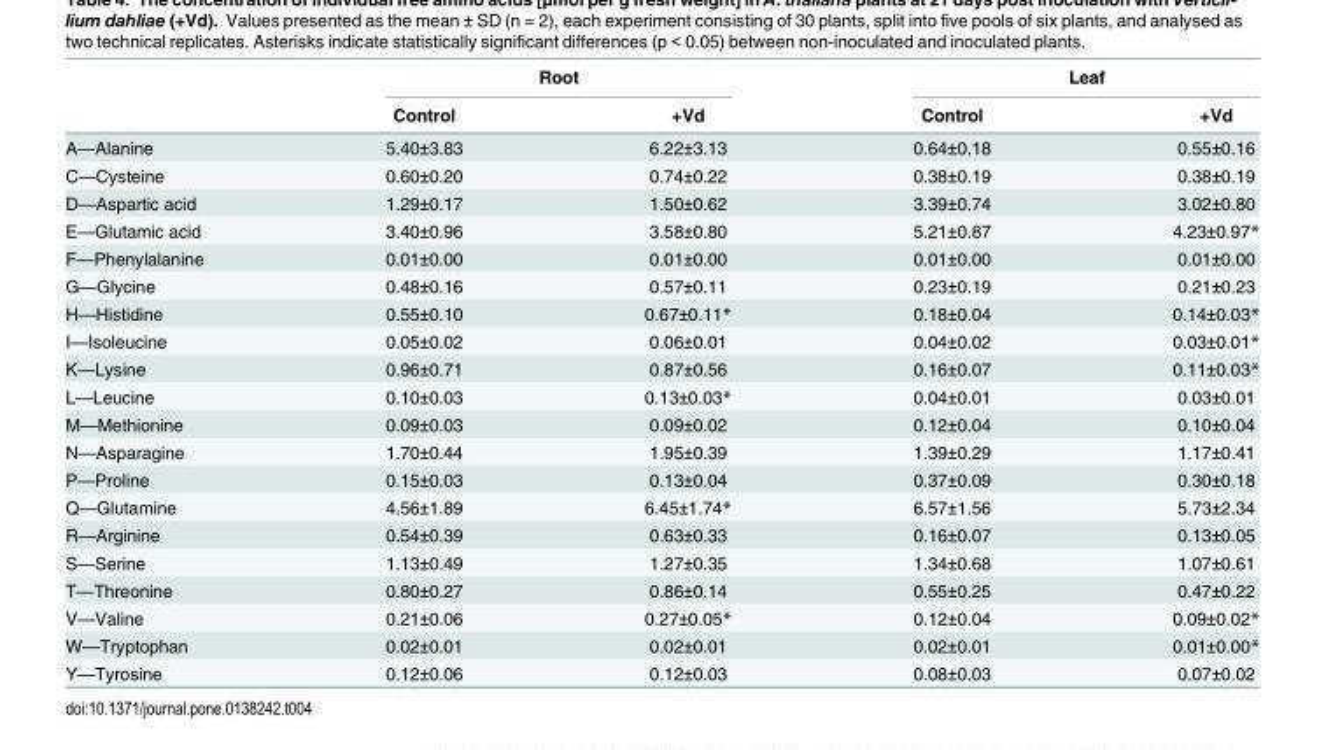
<table><thead><tr><td rowspan="2"></td><td colspan="2">Root</td><td colspan="2">Leaf</td></tr><tr><td>Control</td><td>+Vd</td><td>Control</td><td>+Vd</td></tr></thead><tbody><tr><td>A—Alanine</td><td>5.40±3.83</td><td>6.22±3.13</td><td>0.64±0.18</td><td>0.55±0.16</td></tr><tr><td>C—Cysteine</td><td>0.60±0.20</td><td>0.74±0.22</td><td>0.38±0.19</td><td>0.38±0.19</td></tr><tr><td>D—Aspartic acid</td><td>1.29±0.17</td><td>1.50±0.62</td><td>3.39±0.74</td><td>3.02±0.80</td></tr><tr><td>E—Glutamic acid</td><td>3.40±0.96</td><td>3.58±0.80</td><td>5.21±0.87</td><td>4.23±0.97*</td></tr><tr><td>F—Phenylalanine</td><td>0.01±0.00</td><td>0.01±0.00</td><td>0.01±0.00</td><td>0.01±0.00</td></tr><tr><td>G—Glycine</td><td>0.48±0.16</td><td>0.57±0.11</td><td>0.23±0.19</td><td>0.21±0.23</td></tr><tr><td>H—Histidine</td><td>0.55±0.10</td><td>0.67±0.11*</td><td>0.18±0.04</td><td>0.14±0.03*</td></tr><tr><td>I—Isoleucine</td><td>0.05±0.02</td><td>0.06±0.01</td><td>0.04±0.02</td><td>0.03±0.01*</td></tr><tr><td>K—Lysine</td><td>0.96±0.71</td><td>0.87±0.56</td><td>0.16±0.07</td><td>0.11±0.03*</td></tr><tr><td>L—Leucine</td><td>0.10±0.03</td><td>0.13±0.03*</td><td>0.04±0.01</td><td>0.03±0.01</td></tr><tr><td>M—Methionine</td><td>0.09±0.03</td><td>0.09±0.02</td><td>0.12±0.04</td><td>0.10±0.04</td></tr><tr><td>N—Asparagine</td><td>1.70±0.44</td><td>1.95±0.39</td><td>1.39±0.29</td><td>1.17±0.41</td></tr><tr><td>P—Proline</td><td>0.15±0.03</td><td>0.13±0.04</td><td>0.37±0.09</td><td>0.30±0.18</td></tr><tr><td>Q—Glutamine</td><td>4.56±1.89</td><td>6.45±1.74*</td><td>6.57±1.56</td><td>5.73±2.34</td></tr><tr><td>R—Arginine</td><td>0.54±0.39</td><td>0.63±0.33</td><td>0.16±0.07</td><td>0.13±0.05</td></tr><tr><td>S—Serine</td><td>1.13±0.49</td><td>1.27±0.35</td><td>1.34±0.68</td><td>1.07±0.61</td></tr><tr><td>T—Threonine</td><td>0.80±0.27</td><td>0.86±0.14</td><td>0.55±0.25</td><td>0.47±0.22</td></tr><tr><td>V—Valine</td><td>0.21±0.06</td><td>0.27±0.05*</td><td>0.12±0.04</td><td>0.09±0.02*</td></tr><tr><td>W—Tryptophan</td><td>0.02±0.01</td><td>0.02±0.01</td><td>0.02±0.01</td><td>0.01±0.00*</td></tr><tr><td>Y—Tyrosine</td><td>0.12±0.06</td><td>0.12±0.03</td><td>0.08±0.03</td><td>0.07±0.02</td></tr></tbody></table>